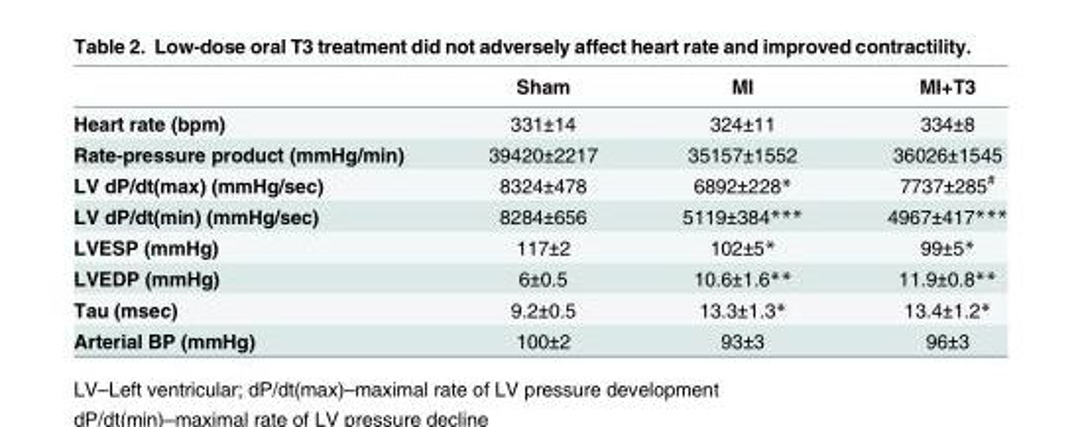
<table><thead><tr><td></td><td>Sham</td><td>MI</td><td>MI+T3</td></tr></thead><tbody><tr><td>Heart rate (bpm)</td><td>331±14</td><td>324±11</td><td>334±8</td></tr><tr><td>Rate-pressure product (mmHg/min)</td><td>39420±2217</td><td>35157±1552</td><td>36026±1545</td></tr><tr><td>LV dP/dt(max) (mmHg/sec)</td><td>8324±478</td><td>6892±228*</td><td>7737±285<sup>#</sup></td></tr><tr><td>LV dP/dt(min) (mmHg/sec)</td><td>8284±656</td><td>5119±384***</td><td>4967±417***</td></tr><tr><td>LVESP (mmHg)</td><td>117±2</td><td>102±5*</td><td>99±5*</td></tr><tr><td>LVEDP (mmHg)</td><td>6±0.5</td><td>10.6±1.6**</td><td>11.9±0.8**</td></tr><tr><td>Tau (msec)</td><td>9.2±0.5</td><td>13.3±1.3*</td><td>13.4±1.2*</td></tr><tr><td>Arterial BP (mmHg)</td><td>100±2</td><td>93±3</td><td>96±3</td></tr></tbody></table>